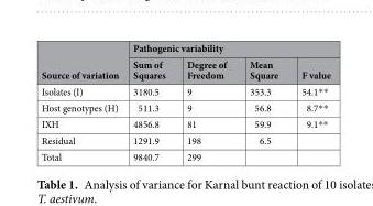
<table><thead><tr><td rowspan="2">Source of variation</td><td colspan="4">Pathogenic variability</td></tr><tr><td>Sum of Squares</td><td>Degree of Freedom</td><td>Mean Square</td><td>F value</td></tr></thead><tbody><tr><td>Isolates (I)</td><td>3180.5</td><td>9</td><td>353.3</td><td>54.1**</td></tr><tr><td>Host genotypes (H)</td><td>511.3</td><td>9</td><td>56.8</td><td>8.7**</td></tr><tr><td>IXH</td><td>4856.8</td><td>81</td><td>59.9</td><td>9.1**</td></tr><tr><td>Residual</td><td>1291.9</td><td>198</td><td>6.5</td><td></td></tr><tr><td>Total</td><td>9840.7</td><td>299</td><td></td><td></td></tr></tbody></table>